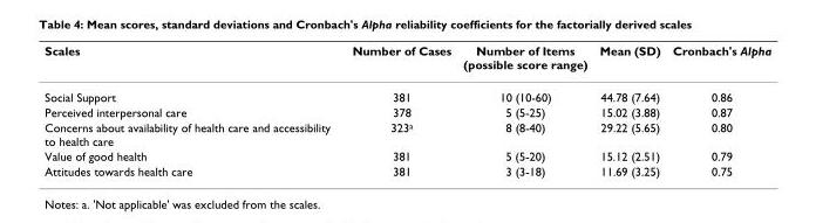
<table><thead><tr><td>Scales</td><td>Number of Cases</td><td>Number of Items (possible score range)</td><td>Mean (SD)</td><td>Cronbach&#x27;s Alpha</td></tr></thead><tbody><tr><td>Social Support</td><td>381</td><td>10 (10-60)</td><td>44.78 (7.64)</td><td>0.86</td></tr><tr><td>Perceived interpersonal care</td><td>378</td><td>5 (5-25)</td><td>15.02 (3.88)</td><td>0.87</td></tr><tr><td>Concerns about availability of health care and accessibility to health care</td><td>323<sup>a</sup></td><td>8 (8-40)</td><td>29.22 (5.65)</td><td>0.80</td></tr><tr><td>Value of good health</td><td>381</td><td>5 (5-20)</td><td>15.12 (2.51)</td><td>0.79</td></tr><tr><td>Attitudes towards health care</td><td>381</td><td>3 (3-18)</td><td>11.69 (3.25)</td><td>0.75</td></tr></tbody></table>